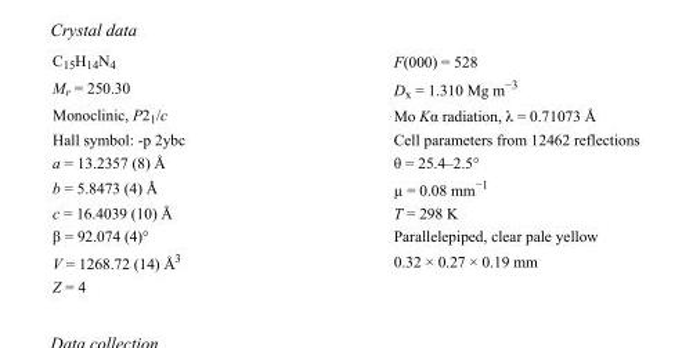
<table><tbody><tr><td>C<sub>15</sub>H<sub>14</sub>N<sub>4</sub></td><td>F(000) = 528</td></tr><tr><td>M<sub>r</sub> = 250.30</td><td>D<sub>x</sub> = 1.310 Mg m<sup>−3</sup></td></tr><tr><td>Monoclinic, P2<sub>1</sub>/c</td><td>Mo Kα radiation, λ = 0.71073 Å</td></tr><tr><td>Hall symbol: -p 2ybc</td><td>Cell parameters from 12462 reflections</td></tr><tr><td>a = 13.2357 (8) Å</td><td>θ = 25.4–2.5°</td></tr><tr><td>b = 5.8473 (4) Å</td><td>µ = 0.08 mm<sup>−1</sup></td></tr><tr><td>c = 16.4039 (10) Å</td><td>T = 298 K</td></tr><tr><td>β = 92.074 (4)°</td><td>Parallelepiped, clear pale yellow</td></tr><tr><td>V = 1268.72 (14) Å<sup>3</sup></td><td>0.32 × 0.27 × 0.19 mm</td></tr><tr><td>Z = 4</td><td></td></tr></tbody></table>